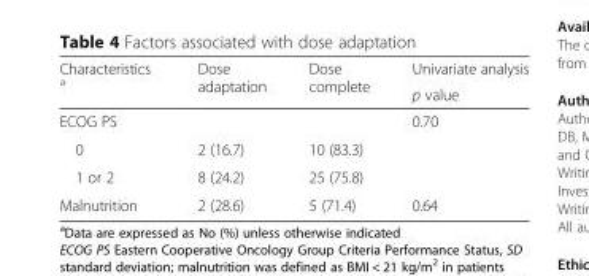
<table><thead><tr><td rowspan="2">Characteristics <sup>a</sup></td><td rowspan="2">Dose adaptation</td><td rowspan="2">Dose complete</td><td rowspan="2">Univariate analysis p value</td></tr><tr></tr></thead><tbody><tr><td>ECOG PS</td><td></td><td></td><td>0.70</td></tr><tr><td>0</td><td>2 (16.7)</td><td>10 (83.3)</td><td></td></tr><tr><td>1 or 2</td><td>8 (24.2)</td><td>25 (75.8)</td><td></td></tr><tr><td>Malnutrition</td><td>2 (28.6)</td><td>5 (71.4)</td><td>0.64</td></tr></tbody></table>